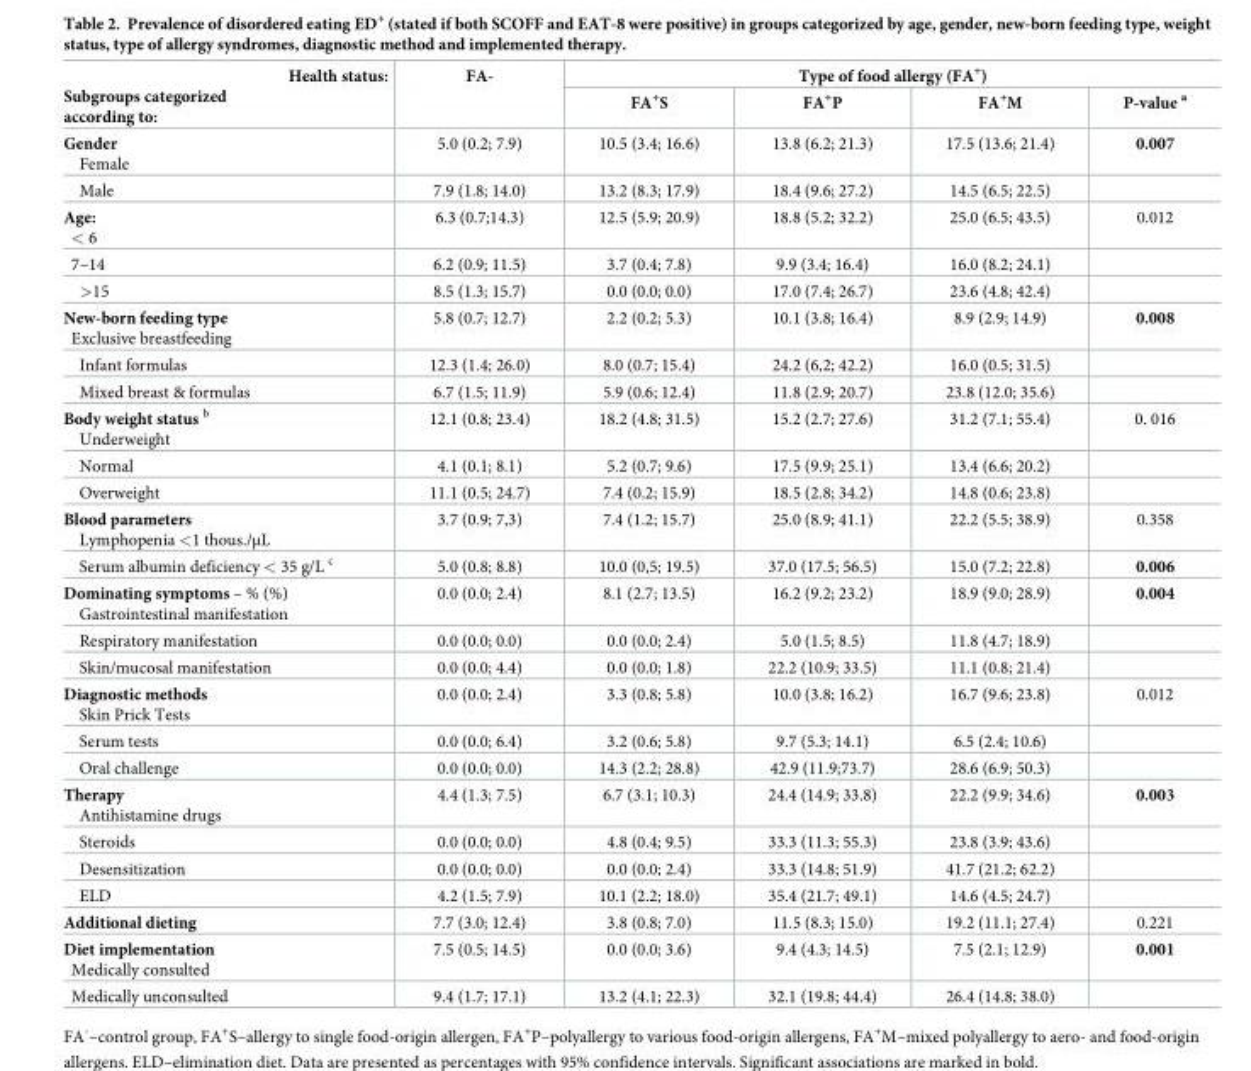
<table><thead><tr><td rowspan="2">Health status: Subgroups categorized according to:</td><td rowspan="2">FA-</td><td colspan="4">Type of food allergy (FA<sup>+</sup>)</td></tr><tr><td>FA<sup>+</sup>S</td><td>FA<sup>+</sup>P</td><td>FA<sup>+</sup>M</td><td>P-value <sup>a</sup></td></tr></thead><tbody><tr><td>Gender Female</td><td>5.0 (0.2; 7.9)</td><td>10.5 (3.4; 16.6)</td><td>13.8 (6.2; 21.3)</td><td>17.5 (13.6; 21.4)</td><td>0.007</td></tr><tr><td>Male</td><td>7.9 (1.8; 14.0)</td><td>13.2 (8.3; 17.9)</td><td>18.4 (9.6; 27.2)</td><td>14.5 (6.5; 22.5)</td><td></td></tr><tr><td>Age: &lt; 6</td><td>6.3 (0.7;14.3)</td><td>12.5 (5.9; 20.9)</td><td>18.8 (5.2; 32.2)</td><td>25.0 (6.5; 43.5)</td><td>0.012</td></tr><tr><td>7–14</td><td>6.2 (0.9; 11.5)</td><td>3.7 (0.4; 7.8)</td><td>9.9 (3.4; 16.4)</td><td>16.0 (8.2; 24.1)</td><td></td></tr><tr><td>&gt;15</td><td>8.5 (1.3; 15.7)</td><td>0.0 (0.0; 0.0)</td><td>17.0 (7.4; 26.7)</td><td>23.6 (4.8; 42.4)</td><td></td></tr><tr><td>New-born feeding type Exclusive breastfeeding</td><td>5.8 (0.7; 12.7)</td><td>2.2 (0.2; 5.3)</td><td>10.1 (3.8; 16.4)</td><td>8.9 (2.9; 14.9)</td><td>0.008</td></tr><tr><td>Infant formulas</td><td>12.3 (1.4; 26.0)</td><td>8.0 (0.7; 15.4)</td><td>24.2 (6,2; 42.2)</td><td>16.0 (0.5; 31.5)</td><td></td></tr><tr><td>Mixed breast &amp; formulas</td><td>6.7 (1.5; 11.9)</td><td>5.9 (0.6; 12.4)</td><td>11.8 (2.9; 20.7)</td><td>23.8 (12.0; 35.6)</td><td></td></tr><tr><td>Body weight status <sup>b</sup> Underweight</td><td>12.1 (0.8; 23.4)</td><td>18.2 (4.8; 31.5)</td><td>15.2 (2.7; 27.6)</td><td>31.2 (7.1; 55.4)</td><td>0. 016</td></tr><tr><td>Normal</td><td>4.1 (0.1; 8.1)</td><td>5.2 (0.7; 9.6)</td><td>17.5 (9.9; 25.1)</td><td>13.4 (6.6; 20.2)</td><td></td></tr><tr><td>Overweight</td><td>11.1 (0.5; 24.7)</td><td>7.4 (0.2; 15.9)</td><td>18.5 (2.8; 34.2)</td><td>14.8 (0.6; 23.8)</td><td></td></tr><tr><td>Blood parameters Lymphopenia &lt;1 thous./μL</td><td>3.7 (0.9; 7,3)</td><td>7.4 (1.2; 15.7)</td><td>25.0 (8.9; 41.1)</td><td>22.2 (5.5; 38.9)</td><td>0.358</td></tr><tr><td>Serum albumin deficiency &lt; 35 g/L <sup>c</sup></td><td>5.0 (0.8; 8.8)</td><td>10.0 (0,5; 19.5)</td><td>37.0 (17.5; 56.5)</td><td>15.0 (7.2; 22.8)</td><td>0.006</td></tr><tr><td>Dominating symptoms – % (%) Gastrointestinal manifestation</td><td>0.0 (0.0; 2.4)</td><td>8.1 (2.7; 13.5)</td><td>16.2 (9.2; 23.2)</td><td>18.9 (9.0; 28.9)</td><td>0.004</td></tr><tr><td>Respiratory manifestation</td><td>0.0 (0.0; 0.0)</td><td>0.0 (0.0; 2.4)</td><td>5.0 (1.5; 8.5)</td><td>11.8 (4.7; 18.9)</td><td></td></tr><tr><td>Skin/mucosal manifestation</td><td>0.0 (0.0; 4.4)</td><td>0.0 (0.0; 1.8)</td><td>22.2 (10.9; 33.5)</td><td>11.1 (0.8; 21.4)</td><td></td></tr><tr><td>Diagnostic methods Skin Prick Tests</td><td>0.0 (0.0; 2.4)</td><td>3.3 (0.8; 5.8)</td><td>10.0 (3.8; 16.2)</td><td>16.7 (9.6; 23.8)</td><td>0.012</td></tr><tr><td>Serum tests</td><td>0.0 (0.0; 6.4)</td><td>3.2 (0.6; 5.8)</td><td>9.7 (5.3; 14.1)</td><td>6.5 (2.4; 10.6)</td><td></td></tr><tr><td>Oral challenge</td><td>0.0 (0.0; 0.0)</td><td>14.3 (2.2; 28.8)</td><td>42.9 (11.9;73.7)</td><td>28.6 (6.9; 50.3)</td><td></td></tr><tr><td>Therapy Antihistamine drugs</td><td>4.4 (1.3; 7.5)</td><td>6.7 (3.1; 10.3)</td><td>24.4 (14.9; 33.8)</td><td>22.2 (9.9; 34.6)</td><td>0.003</td></tr><tr><td>Steroids</td><td>0.0 (0.0; 0.0)</td><td>4.8 (0.4; 9.5)</td><td>33.3 (11.3; 55.3)</td><td>23.8 (3.9; 43.6)</td><td></td></tr><tr><td>Desensitization</td><td>0.0 (0.0; 0.0)</td><td>0.0 (0.0; 2.4)</td><td>33.3 (14.8; 51.9)</td><td>41.7 (21.2; 62.2)</td><td></td></tr><tr><td>ELD</td><td>4.2 (1.5; 7.9)</td><td>10.1 (2.2; 18.0)</td><td>35.4 (21.7; 49.1)</td><td>14.6 (4.5; 24.7)</td><td></td></tr><tr><td>Additional dieting</td><td>7.7 (3.0; 12.4)</td><td>3.8 (0.8; 7.0)</td><td>11.5 (8.3; 15.0)</td><td>19.2 (11.1; 27.4)</td><td>0.221</td></tr><tr><td>Diet implementation Medically consulted</td><td>7.5 (0.5; 14.5)</td><td>0.0 (0.0; 3.6)</td><td>9.4 (4.3; 14.5)</td><td>7.5 (2.1; 12.9)</td><td>0.001</td></tr><tr><td>Medically unconsulted</td><td>9.4 (1.7; 17.1)</td><td>13.2 (4.1; 22.3)</td><td>32.1 (19.8; 44.4)</td><td>26.4 (14.8; 38.0)</td><td></td></tr></tbody></table>